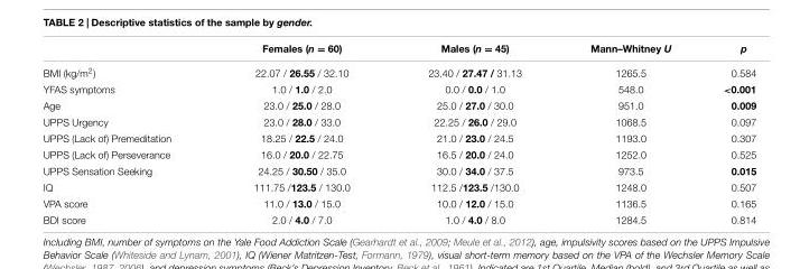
<table><thead><tr><td></td><td>Females (n = 60)</td><td>Males (n = 45)</td><td>Mann–Whitney U</td><td>p</td></tr></thead><tbody><tr><td>BMI (kg/m<sup>2</sup>)</td><td>22.07 / 26.55 / 32.10</td><td>23.40 / 27.47 / 31.13</td><td>1265.5</td><td>0.584</td></tr><tr><td>YFAS symptoms</td><td>1.0 / 1.0 / 2.0</td><td>0.0 / 0.0 / 1.0</td><td>548.0</td><td>&lt;0.001</td></tr><tr><td>Age</td><td>23.0 / 25.0 / 28.0</td><td>25.0 / 27.0 / 30.0</td><td>951.0</td><td>0.009</td></tr><tr><td>UPPS Urgency</td><td>23.0 / 28.0 / 33.0</td><td>22.25 / 26.0 / 29.0</td><td>1068.5</td><td>0.097</td></tr><tr><td>UPPS (Lack of) Premeditation</td><td>18.25 / 22.5 / 24.0</td><td>21.0 / 23.0 / 24.5</td><td>1193.0</td><td>0.307</td></tr><tr><td>UPPS (Lack of) Perseverance</td><td>16.0 / 20.0 / 22.75</td><td>16.5 / 20.0 / 24.0</td><td>1252.0</td><td>0.525</td></tr><tr><td>UPPS Sensation Seeking</td><td>24.25 / 30.50 / 35.0</td><td>30.0 / 34.0 / 37.5</td><td>973.5</td><td>0.015</td></tr><tr><td>IQ</td><td>111.75 /123.5 / 130.0</td><td>112.5 /123.5 /130.0</td><td>1248.0</td><td>0.507</td></tr><tr><td>VPA score</td><td>11.0 / 13.0 / 15.0</td><td>10.0 / 12.0 / 15.0</td><td>1136.5</td><td>0.165</td></tr><tr><td>BDI score</td><td>2.0 / 4.0 / 7.0</td><td>1.0 / 4.0 / 8.0</td><td>1284.5</td><td>0.814</td></tr></tbody></table>